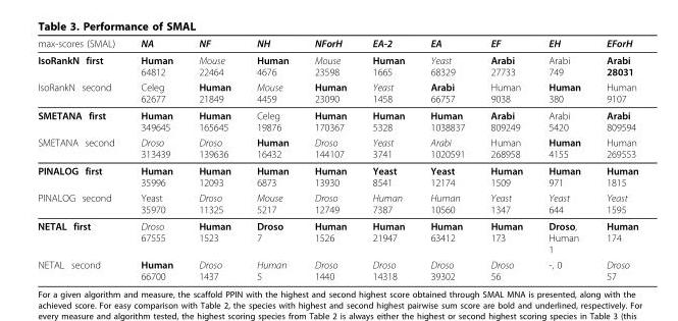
<table><thead><tr><td>max-scores (SMAL)</td><td>NA</td><td>NF</td><td>NH</td><td>NForH</td><td>EA-2</td><td>EA</td><td>EF</td><td>EH</td><td>EForH</td></tr></thead><tbody><tr><td>IsoRankN first</td><td>Human 64812</td><td>Mouse 22464</td><td>Human 4676</td><td>Mouse 23598</td><td>Human 1665</td><td>Yeast 68329</td><td>Arabi 27733</td><td>Arabi 749</td><td>Arabi 28031</td></tr><tr><td>IsoRankN second</td><td>Celeg 62677</td><td>Human 21849</td><td>Mouse 4459</td><td>Human 23090</td><td>Yeast 1458</td><td>Arabi 66757</td><td>Human 9038</td><td>Human 380</td><td>Human 9107</td></tr><tr><td>SMETANA first</td><td>Human 349645</td><td>Human 165645</td><td>Celeg 19876</td><td>Human 170367</td><td>Human 5328</td><td>Human 1038837</td><td>Arabi 809249</td><td>Arabi 5420</td><td>Arabi 809594</td></tr><tr><td>SMETANA second</td><td>Droso 313439</td><td>Droso 139636</td><td>Human 16432</td><td>Droso 144107</td><td>Yeast 3741</td><td>Arabi 1020591</td><td>Human 268958</td><td>Human 4155</td><td>Human 269553</td></tr><tr><td>PINALOG first</td><td>Human 35996</td><td>Human 12093</td><td>Human 6873</td><td>Human 13930</td><td>Yeast 8541</td><td>Yeast 12174</td><td>Human 1509</td><td>Human 971</td><td>Human 1815</td></tr><tr><td>PINALOG second</td><td>Yeast 35970</td><td>Droso 11325</td><td>Mouse 5217</td><td>Droso 12749</td><td>Human 7387</td><td>Human 10560</td><td>Yeast 1347</td><td>Yeast 644</td><td>Yeast 1595</td></tr><tr><td>NETAL first</td><td>Droso 67555</td><td>Human 1523</td><td>Droso 7</td><td>Human 1526</td><td>Human 21947</td><td>Human 63412</td><td>Human 173</td><td>Droso, Human 1</td><td>Human 174</td></tr><tr><td>NETAL second</td><td>Human 66700</td><td>Droso 1437</td><td>Human 5</td><td>Droso 1440</td><td>Droso 14318</td><td>Droso 39302</td><td>Droso 56</td><td>-, 0</td><td>Droso 57</td></tr></tbody></table>